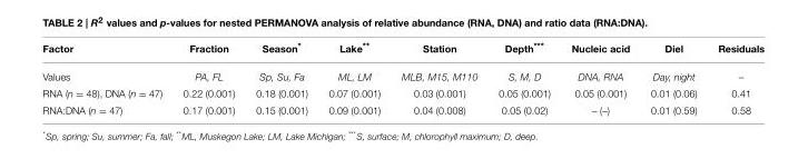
<table><thead><tr><td>Factor</td><td>Fraction</td><td>Season*</td><td>Lake**</td><td>Station</td><td>Depth***</td><td>Nucleic acid</td><td>Diel</td><td>Residuals</td></tr></thead><tbody><tr><td>Values</td><td>PA, FL</td><td>Sp, Su, Fa</td><td>ML, LM</td><td>MLB, M15, M110</td><td>S, M, D</td><td>DNA, RNA</td><td>Day, night</td><td>–</td></tr><tr><td>RNA (n = 48), DNA (n = 47)</td><td>0.22 (0.001)</td><td>0.18 (0.001)</td><td>0.07 (0.001)</td><td>0.03 (0.001)</td><td>0.05 (0.001)</td><td>0.05 (0.001)</td><td>0.01 (0.06)</td><td>0.41</td></tr><tr><td>RNA:DNA (n = 47)</td><td>0.17 (0.001)</td><td>0.15 (0.001)</td><td>0.09 (0.001)</td><td>0.04 (0.008)</td><td>0.05 (0.02)</td><td>– (–)</td><td>0.01 (0.59)</td><td>0.58</td></tr></tbody></table>